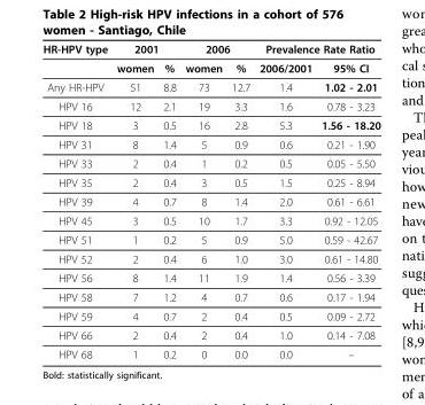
<table><thead><tr><td rowspan="2">HR-HPV type</td><td colspan="2">2001</td><td colspan="2">2006</td><td colspan="2">Prevalence Rate Ratio</td></tr><tr><td>women</td><td>%</td><td>women</td><td>%</td><td>2006/2001</td><td>95% CI</td></tr></thead><tbody><tr><td>Any HR-HPV</td><td>51</td><td>8.8</td><td>73</td><td>12.7</td><td>1.4</td><td>1.02 - 2.01</td></tr><tr><td>HPV 16</td><td>12</td><td>2.1</td><td>19</td><td>3.3</td><td>1.6</td><td>0.78 - 3.23</td></tr><tr><td>HPV 18</td><td>3</td><td>0.5</td><td>16</td><td>2.8</td><td>5.3</td><td>1.56 - 18.20</td></tr><tr><td>HPV 31</td><td>8</td><td>1.4</td><td>5</td><td>0.9</td><td>0.6</td><td>0.21 - 1.90</td></tr><tr><td>HPV 33</td><td>2</td><td>0.4</td><td>1</td><td>0.2</td><td>0.5</td><td>0.05 - 5.50</td></tr><tr><td>HPV 35</td><td>2</td><td>0.4</td><td>3</td><td>0.5</td><td>1.5</td><td>0.25 - 8.94</td></tr><tr><td>HPV 39</td><td>4</td><td>0.7</td><td>8</td><td>1.4</td><td>2.0</td><td>0.61 - 6.61</td></tr><tr><td>HPV 45</td><td>3</td><td>0.5</td><td>10</td><td>1.7</td><td>3.3</td><td>0.92 - 12.05</td></tr><tr><td>HPV 51</td><td>1</td><td>0.2</td><td>5</td><td>0.9</td><td>5.0</td><td>0.59 - 42.67</td></tr><tr><td>HPV 52</td><td>2</td><td>0.4</td><td>6</td><td>1.0</td><td>3.0</td><td>0.61 - 14.80</td></tr><tr><td>HPV 56</td><td>8</td><td>1.4</td><td>11</td><td>1.9</td><td>1.4</td><td>0.56 - 3.39</td></tr><tr><td>HPV 58</td><td>7</td><td>1.2</td><td>4</td><td>0.7</td><td>0.6</td><td>0.17 - 1.94</td></tr><tr><td>HPV 59</td><td>4</td><td>0.7</td><td>2</td><td>0.4</td><td>0.5</td><td>0.09 - 2.72</td></tr><tr><td>HPV 66</td><td>2</td><td>0.4</td><td>2</td><td>0.4</td><td>1.0</td><td>0.14 - 7.08</td></tr><tr><td>HPV 68</td><td>1</td><td>0.2</td><td>0</td><td>0.0</td><td>0.0</td><td>–</td></tr></tbody></table>